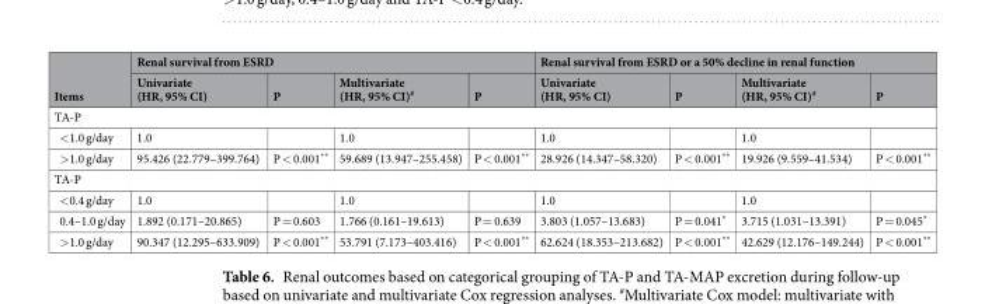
<table><thead><tr><td rowspan="2">Items</td><td colspan="4">Renal survival from ESRD</td><td colspan="4">Renal survival from ESRD or a 50% decline in renal function</td></tr><tr><td>Univariate (HR, 95% CI)</td><td>P</td><td>Multivariate (HR, 95% CI)<sup>#</sup></td><td>P</td><td>Univariate (HR, 95% CI)</td><td>P</td><td>Multivariate (HR, 95% CI)<sup>#</sup></td><td>P</td></tr></thead><tbody><tr><td colspan="9">TA-P</td></tr><tr><td>&lt;1.0 g/day</td><td>1.0</td><td></td><td>1.0</td><td></td><td>1.0</td><td></td><td>1.0</td><td></td></tr><tr><td>&gt;1.0 g/day</td><td>95.426 (22.779–399.764)</td><td>P &lt; 0.001**</td><td>59.689 (13.947–255.458)</td><td>P &lt; 0.001**</td><td>28.926 (14.347–58.320)</td><td>P &lt; 0.001**</td><td>19.926 (9.559–41.534)</td><td>P &lt; 0.001**</td></tr><tr><td colspan="9">TA-P</td></tr><tr><td>&lt;0.4 g/day</td><td>1.0</td><td></td><td>1.0</td><td></td><td>1.0</td><td></td><td>1.0</td><td></td></tr><tr><td>0.4–1.0 g/day</td><td>1.892 (0.171–20.865)</td><td>P = 0.603</td><td>1.766 (0.161–19.613)</td><td>P = 0.639</td><td>3.803 (1.057–13.683)</td><td>P = 0.041*</td><td>3.715 (1.031–13.391)</td><td>P = 0.045*</td></tr><tr><td>&gt;1.0 g/day</td><td>90.347 (12.295–633.909)</td><td>P &lt; 0.001**</td><td>53.791 (7.173–403.416)</td><td>P &lt; 0.001**</td><td>62.624 (18.353–213.682)</td><td>P &lt; 0.001**</td><td>42.629 (12.176–149.244)</td><td>P &lt; 0.001**</td></tr></tbody></table>